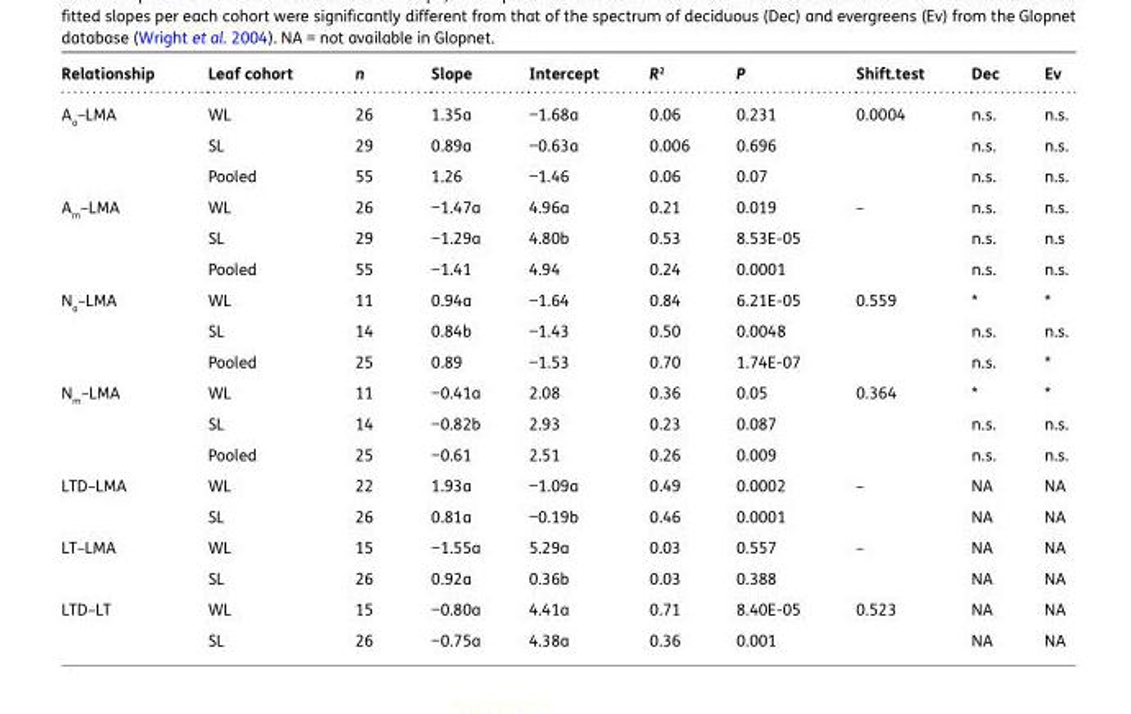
<table><thead><tr><td>Relationship</td><td>Leaf cohort</td><td>n</td><td>Slope</td><td>Intercept</td><td>R<sup>2</sup></td><td>P</td><td>Shift.test</td><td>Dec</td><td>Ev</td></tr></thead><tbody><tr><td rowspan="3">A<sub>a</sub>–LMA</td><td>WL</td><td>26</td><td>1.35a</td><td>−1.68a</td><td>0.06</td><td>0.231</td><td>0.0004</td><td>n.s.</td><td>n.s.</td></tr><tr><td>SL</td><td>29</td><td>0.89a</td><td>−0.63a</td><td>0.006</td><td>0.696</td><td></td><td>n.s.</td><td>n.s.</td></tr><tr><td>Pooled</td><td>55</td><td>1.26</td><td>−1.46</td><td>0.06</td><td>0.07</td><td></td><td>n.s.</td><td>n.s.</td></tr><tr><td rowspan="3">A<sub>m</sub>–LMA</td><td>WL</td><td>26</td><td>−1.47a</td><td>4.96a</td><td>0.21</td><td>0.019</td><td>–</td><td>n.s.</td><td>n.s.</td></tr><tr><td>SL</td><td>29</td><td>−1.29a</td><td>4.80b</td><td>0.53</td><td>8.53E-05</td><td></td><td>n.s.</td><td>n.s</td></tr><tr><td>Pooled</td><td>55</td><td>−1.41</td><td>4.94</td><td>0.24</td><td>0.0001</td><td></td><td>n.s.</td><td>n.s.</td></tr><tr><td rowspan="3">N<sub>a</sub>–LMA</td><td>WL</td><td>11</td><td>0.94a</td><td>−1.64</td><td>0.84</td><td>6.21E-05</td><td>0.559</td><td>*</td><td>*</td></tr><tr><td>SL</td><td>14</td><td>0.84b</td><td>−1.43</td><td>0.50</td><td>0.0048</td><td></td><td>n.s.</td><td>n.s.</td></tr><tr><td>Pooled</td><td>25</td><td>0.89</td><td>−1.53</td><td>0.70</td><td>1.74E-07</td><td></td><td>n.s.</td><td>*</td></tr><tr><td rowspan="3">N<sub>m</sub>–LMA</td><td>WL</td><td>11</td><td>−0.41a</td><td>2.08</td><td>0.36</td><td>0.05</td><td>0.364</td><td>*</td><td>*</td></tr><tr><td>SL</td><td>14</td><td>−0.82b</td><td>2.93</td><td>0.23</td><td>0.087</td><td></td><td>n.s.</td><td>n.s.</td></tr><tr><td>Pooled</td><td>25</td><td>−0.61</td><td>2.51</td><td>0.26</td><td>0.009</td><td></td><td>n.s.</td><td>n.s.</td></tr><tr><td rowspan="2">LTD–LMA</td><td>WL</td><td>22</td><td>1.93a</td><td>−1.09a</td><td>0.49</td><td>0.0002</td><td>–</td><td>NA</td><td>NA</td></tr><tr><td>SL</td><td>26</td><td>0.81a</td><td>−0.19b</td><td>0.46</td><td>0.0001</td><td></td><td>NA</td><td>NA</td></tr><tr><td rowspan="2">LT–LMA</td><td>WL</td><td>15</td><td>−1.55a</td><td>5.29a</td><td>0.03</td><td>0.557</td><td>–</td><td>NA</td><td>NA</td></tr><tr><td>SL</td><td>26</td><td>0.92a</td><td>0.36b</td><td>0.03</td><td>0.388</td><td></td><td>NA</td><td>NA</td></tr><tr><td rowspan="2">LTD–LT</td><td>WL</td><td>15</td><td>−0.80a</td><td>4.41a</td><td>0.71</td><td>8.40E-05</td><td>0.523</td><td>NA</td><td>NA</td></tr><tr><td>SL</td><td>26</td><td>−0.75a</td><td>4.38a</td><td>0.36</td><td>0.001</td><td></td><td>NA</td><td>NA</td></tr></tbody></table>